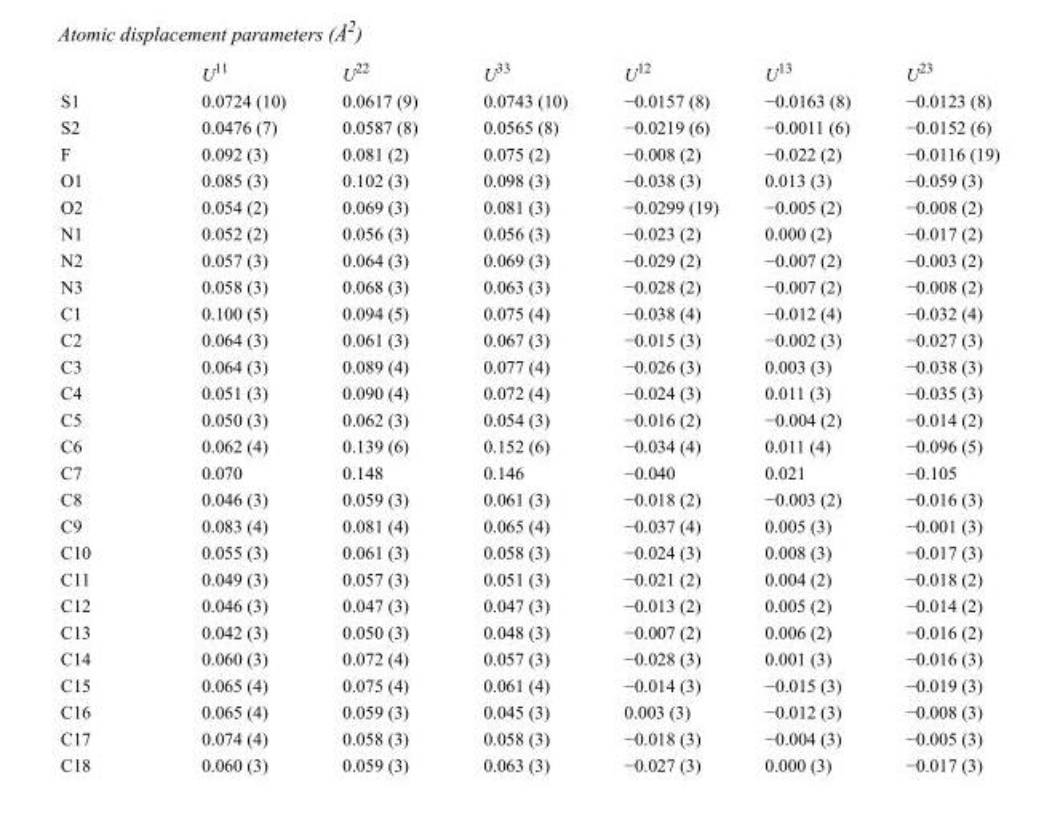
<table><thead><tr><td></td><td>U<sup>11</sup></td><td>U<sup>22</sup></td><td>U<sup>33</sup></td><td>U<sup>12</sup></td><td>U<sup>13</sup></td><td>U<sup>23</sup></td></tr></thead><tbody><tr><td>S1</td><td>0.0724 (10)</td><td>0.0617 (9)</td><td>0.0743 (10)</td><td>−0.0157 (8)</td><td>−0.0163 (8)</td><td>−0.0123 (8)</td></tr><tr><td>S2</td><td>0.0476 (7)</td><td>0.0587 (8)</td><td>0.0565 (8)</td><td>−0.0219 (6)</td><td>−0.0011 (6)</td><td>−0.0152 (6)</td></tr><tr><td>F</td><td>0.092 (3)</td><td>0.081 (2)</td><td>0.075 (2)</td><td>−0.008 (2)</td><td>−0.022 (2)</td><td>−0.0116 (19)</td></tr><tr><td>O1</td><td>0.085 (3)</td><td>0.102 (3)</td><td>0.098 (3)</td><td>−0.038 (3)</td><td>0.013 (3)</td><td>−0.059 (3)</td></tr><tr><td>O2</td><td>0.054 (2)</td><td>0.069 (3)</td><td>0.081 (3)</td><td>−0.0299 (19)</td><td>−0.005 (2)</td><td>−0.008 (2)</td></tr><tr><td>N1</td><td>0.052 (2)</td><td>0.056 (3)</td><td>0.056 (3)</td><td>−0.023 (2)</td><td>0.000 (2)</td><td>−0.017 (2)</td></tr><tr><td>N2</td><td>0.057 (3)</td><td>0.064 (3)</td><td>0.069 (3)</td><td>−0.029 (2)</td><td>−0.007 (2)</td><td>−0.003 (2)</td></tr><tr><td>N3</td><td>0.058 (3)</td><td>0.068 (3)</td><td>0.063 (3)</td><td>−0.028 (2)</td><td>−0.007 (2)</td><td>−0.008 (2)</td></tr><tr><td>C1</td><td>0.100 (5)</td><td>0.094 (5)</td><td>0.075 (4)</td><td>−0.038 (4)</td><td>−0.012 (4)</td><td>−0.032 (4)</td></tr><tr><td>C2</td><td>0.064 (3)</td><td>0.061 (3)</td><td>0.067 (3)</td><td>−0.015 (3)</td><td>−0.002 (3)</td><td>−0.027 (3)</td></tr><tr><td>C3</td><td>0.064 (3)</td><td>0.089 (4)</td><td>0.077 (4)</td><td>−0.026 (3)</td><td>0.003 (3)</td><td>−0.038 (3)</td></tr><tr><td>C4</td><td>0.051 (3)</td><td>0.090 (4)</td><td>0.072 (4)</td><td>−0.024 (3)</td><td>0.011 (3)</td><td>−0.035 (3)</td></tr><tr><td>C5</td><td>0.050 (3)</td><td>0.062 (3)</td><td>0.054 (3)</td><td>−0.016 (2)</td><td>−0.004 (2)</td><td>−0.014 (2)</td></tr><tr><td>C6</td><td>0.062 (4)</td><td>0.139 (6)</td><td>0.152 (6)</td><td>−0.034 (4)</td><td>0.011 (4)</td><td>−0.096 (5)</td></tr><tr><td>C7</td><td>0.070</td><td>0.148</td><td>0.146</td><td>−0.040</td><td>0.021</td><td>−0.105</td></tr><tr><td>C8</td><td>0.046 (3)</td><td>0.059 (3)</td><td>0.061 (3)</td><td>−0.018 (2)</td><td>−0.003 (2)</td><td>−0.016 (3)</td></tr><tr><td>C9</td><td>0.083 (4)</td><td>0.081 (4)</td><td>0.065 (4)</td><td>−0.037 (4)</td><td>0.005 (3)</td><td>−0.001 (3)</td></tr><tr><td>C10</td><td>0.055 (3)</td><td>0.061 (3)</td><td>0.058 (3)</td><td>−0.024 (3)</td><td>0.008 (3)</td><td>−0.017 (3)</td></tr><tr><td>C11</td><td>0.049 (3)</td><td>0.057 (3)</td><td>0.051 (3)</td><td>−0.021 (2)</td><td>0.004 (2)</td><td>−0.018 (2)</td></tr><tr><td>C12</td><td>0.046 (3)</td><td>0.047 (3)</td><td>0.047 (3)</td><td>−0.013 (2)</td><td>0.005 (2)</td><td>−0.014 (2)</td></tr><tr><td>C13</td><td>0.042 (3)</td><td>0.050 (3)</td><td>0.048 (3)</td><td>−0.007 (2)</td><td>0.006 (2)</td><td>−0.016 (2)</td></tr><tr><td>C14</td><td>0.060 (3)</td><td>0.072 (4)</td><td>0.057 (3)</td><td>−0.028 (3)</td><td>0.001 (3)</td><td>−0.016 (3)</td></tr><tr><td>C15</td><td>0.065 (4)</td><td>0.075 (4)</td><td>0.061 (4)</td><td>−0.014 (3)</td><td>−0.015 (3)</td><td>−0.019 (3)</td></tr><tr><td>C16</td><td>0.065 (4)</td><td>0.059 (3)</td><td>0.045 (3)</td><td>0.003 (3)</td><td>−0.012 (3)</td><td>−0.008 (3)</td></tr><tr><td>C17</td><td>0.074 (4)</td><td>0.058 (3)</td><td>0.058 (3)</td><td>−0.018 (3)</td><td>−0.004 (3)</td><td>−0.005 (3)</td></tr><tr><td>C18</td><td>0.060 (3)</td><td>0.059 (3)</td><td>0.063 (3)</td><td>−0.027 (3)</td><td>0.000 (3)</td><td>−0.017 (3)</td></tr></tbody></table>